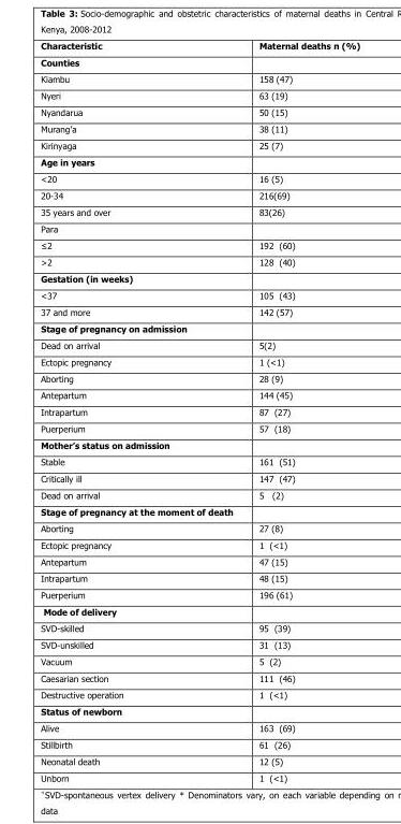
<table><thead><tr><td>Characteristic</td><td>Maternal deaths n (%)</td></tr></thead><tbody><tr><td colspan="2">Counties</td></tr><tr><td>Kiambu</td><td>158 (47)</td></tr><tr><td>Nyeri</td><td>63 (19)</td></tr><tr><td>Nyandarua</td><td>50 (15)</td></tr><tr><td>Murang’a</td><td>38 (11)</td></tr><tr><td>Kirinyaga</td><td>25 (7)</td></tr><tr><td colspan="2">Age in years</td></tr><tr><td>&lt;20</td><td>16 (5)</td></tr><tr><td>20-34</td><td>216(69)</td></tr><tr><td>35 years and over</td><td>83(26)</td></tr><tr><td colspan="2">Para</td></tr><tr><td>≤2</td><td>192 (60)</td></tr><tr><td>&gt;2</td><td>128 (40)</td></tr><tr><td colspan="2">Gestation (in weeks)</td></tr><tr><td>&lt;37</td><td>105 (43)</td></tr><tr><td>37 and more</td><td>142 (57)</td></tr><tr><td colspan="2">Stage of pregnancy on admission</td></tr><tr><td>Dead on arrival</td><td>5(2)</td></tr><tr><td>Ectopic pregnancy</td><td>1 (&lt;1)</td></tr><tr><td>Aborting</td><td>28 (9)</td></tr><tr><td>Antepartum</td><td>144 (45)</td></tr><tr><td>Intrapartum</td><td>87 (27)</td></tr><tr><td>Puerperium</td><td>57 (18)</td></tr><tr><td colspan="2">Mother’s status on admission</td></tr><tr><td>Stable</td><td>161 (51)</td></tr><tr><td>Critically ill</td><td>147 (47)</td></tr><tr><td>Dead on arrival</td><td>5 (2)</td></tr><tr><td colspan="2">Stage of pregnancy at the moment of death</td></tr><tr><td>Aborting</td><td>27 (8)</td></tr><tr><td>Ectopic pregnancy</td><td>1 (&lt;1)</td></tr><tr><td>Antepartum</td><td>47 (15)</td></tr><tr><td>Intrapartum</td><td>48 (15)</td></tr><tr><td>Puerperium</td><td>196 (61)</td></tr><tr><td colspan="2">Mode of delivery</td></tr><tr><td>SVD-skilled</td><td>95 (39)</td></tr><tr><td>SVD-unskilled</td><td>31 (13)</td></tr><tr><td>Vacuum</td><td>5 (2)</td></tr><tr><td>Caesarian section</td><td>111 (46)</td></tr><tr><td>Destructive operation</td><td>1 (&lt;1)</td></tr><tr><td colspan="2">Status of newborn</td></tr><tr><td>Alive</td><td>163 (69)</td></tr><tr><td>Stillbirth</td><td>61 (26)</td></tr><tr><td>Neonatal death</td><td>12 (5)</td></tr><tr><td>Unborn</td><td>1 (&lt;1)</td></tr></tbody></table>